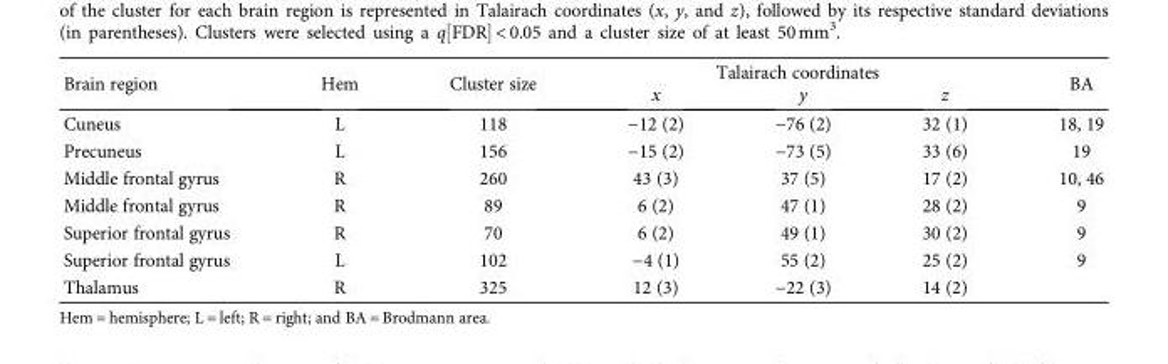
<table><thead><tr><td rowspan="2">Brain region</td><td rowspan="2">Hem</td><td rowspan="2">Cluster size</td><td colspan="3">Talairach coordinates</td><td rowspan="2">BA</td></tr><tr><td>x</td><td>y</td><td>z</td></tr></thead><tbody><tr><td>Cuneus</td><td>L</td><td>118</td><td>−12 (2)</td><td>−76 (2)</td><td>32 (1)</td><td>18, 19</td></tr><tr><td>Precuneus</td><td>L</td><td>156</td><td>−15 (2)</td><td>−73 (5)</td><td>33 (6)</td><td>19</td></tr><tr><td>Middle frontal gyrus</td><td>R</td><td>260</td><td>43 (3)</td><td>37 (5)</td><td>17 (2)</td><td>10, 46</td></tr><tr><td>Middle frontal gyrus</td><td>R</td><td>89</td><td>6 (2)</td><td>47 (1)</td><td>28 (2)</td><td>9</td></tr><tr><td>Superior frontal gyrus</td><td>R</td><td>70</td><td>6 (2)</td><td>49 (1)</td><td>30 (2)</td><td>9</td></tr><tr><td>Superior frontal gyrus</td><td>L</td><td>102</td><td>−4 (1)</td><td>55 (2)</td><td>25 (2)</td><td>9</td></tr><tr><td>Thalamus</td><td>R</td><td>325</td><td>12 (3)</td><td>−22 (3)</td><td>14 (2)</td><td></td></tr></tbody></table>